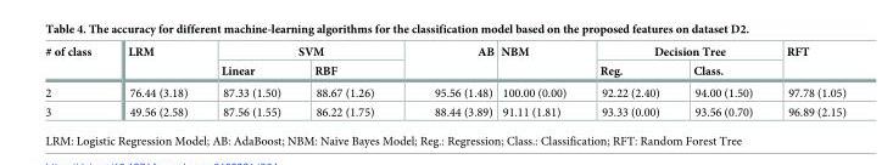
<table><thead><tr><td rowspan="2"># of class</td><td rowspan="2">LRM</td><td colspan="2">SVM</td><td rowspan="2">AB</td><td rowspan="2">NBM</td><td colspan="2">Decision Tree</td><td rowspan="2">RFT</td></tr><tr><td>Linear</td><td>RBF</td><td>Reg.</td><td>Class.</td></tr></thead><tbody><tr><td>2</td><td>76.44 (3.18)</td><td>87.33 (1.50)</td><td>88.67 (1.26)</td><td>95.56 (1.48)</td><td>100.00 (0.00)</td><td>92.22 (2.40)</td><td>94.00 (1.50)</td><td>97.78 (1.05)</td></tr><tr><td>3</td><td>49.56 (2.58)</td><td>87.56 (1.55)</td><td>86.22 (1.75)</td><td>88.44 (3.89)</td><td>91.11 (1.81)</td><td>93.33 (0.00)</td><td>93.56 (0.70)</td><td>96.89 (2.15)</td></tr></tbody></table>